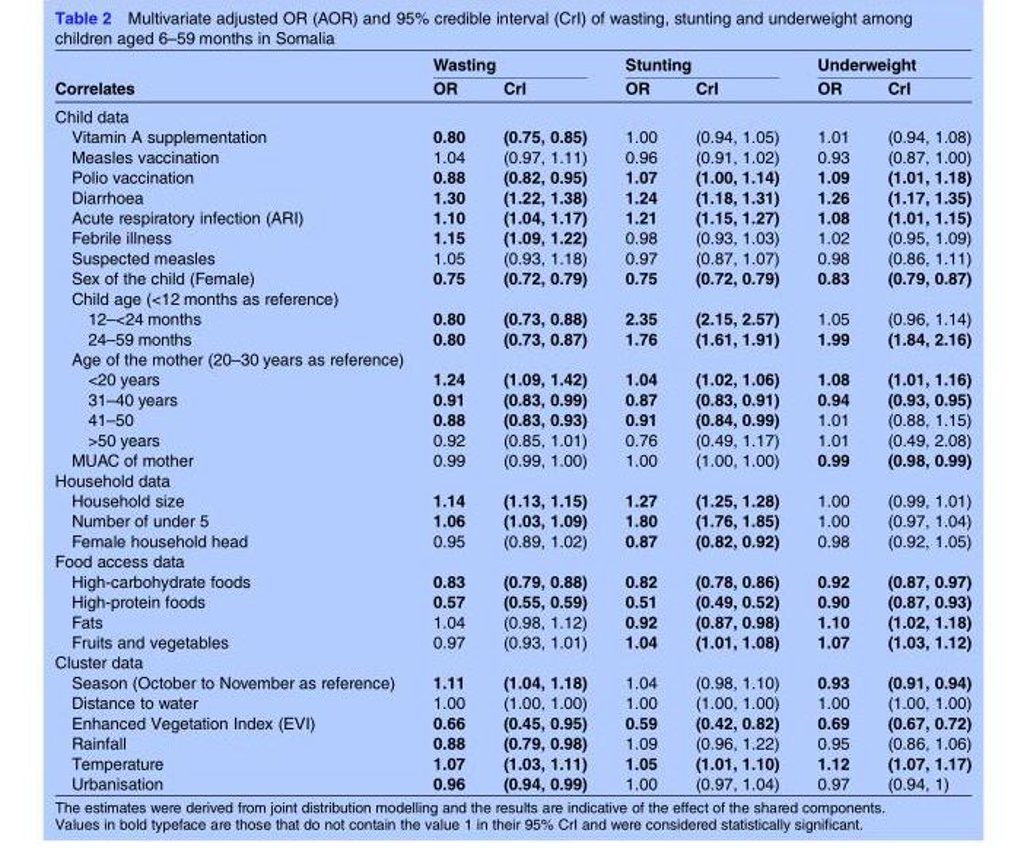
<table><thead><tr><td rowspan="2">Correlates</td><td colspan="2">Wasting</td><td colspan="2">Stunting</td><td colspan="2">Underweight</td></tr><tr><td>OR</td><td>CrI</td><td>OR</td><td>CrI</td><td>OR</td><td>CrI</td></tr></thead><tbody><tr><td colspan="7">Child data</td></tr><tr><td>Vitamin A supplementation</td><td>0.80</td><td>(0.75, 0.85)</td><td>1.00</td><td>(0.94, 1.05)</td><td>1.01</td><td>(0.94, 1.08)</td></tr><tr><td>Measles vaccination</td><td>1.04</td><td>(0.97, 1.11)</td><td>0.96</td><td>(0.91, 1.02)</td><td>0.93</td><td>(0.87, 1.00)</td></tr><tr><td>Polio vaccination</td><td>0.88</td><td>(0.82, 0.95)</td><td>1.07</td><td>(1.00, 1.14)</td><td>1.09</td><td>(1.01, 1.18)</td></tr><tr><td>Diarrhoea</td><td>1.30</td><td>(1.22, 1.38)</td><td>1.24</td><td>(1.18, 1.31)</td><td>1.26</td><td>(1.17, 1.35)</td></tr><tr><td>Acute respiratory infection (ARI)</td><td>1.10</td><td>(1.04, 1.17)</td><td>1.21</td><td>(1.15, 1.27)</td><td>1.08</td><td>(1.01, 1.15)</td></tr><tr><td>Febrile illness</td><td>1.15</td><td>(1.09, 1.22)</td><td>0.98</td><td>(0.93, 1.03)</td><td>1.02</td><td>(0.95, 1.09)</td></tr><tr><td>Suspected measles</td><td>1.05</td><td>(0.93, 1.18)</td><td>0.97</td><td>(0.87, 1.07)</td><td>0.98</td><td>(0.86, 1.11)</td></tr><tr><td>Sex of the child (Female)</td><td>0.75</td><td>(0.72, 0.79)</td><td>0.75</td><td>(0.72, 0.79)</td><td>0.83</td><td>(0.79, 0.87)</td></tr><tr><td colspan="7">Child age (&lt;12 months as reference)</td></tr><tr><td>12–&lt;24 months</td><td>0.80</td><td>(0.73, 0.88)</td><td>2.35</td><td>(2.15, 2.57)</td><td>1.05</td><td>(0.96, 1.14)</td></tr><tr><td>24–59 months</td><td>0.80</td><td>(0.73, 0.87)</td><td>1.76</td><td>(1.61, 1.91)</td><td>1.99</td><td>(1.84, 2.16)</td></tr><tr><td colspan="7">Age of the mother (20–30 years as reference)</td></tr><tr><td>&lt;20 years</td><td>1.24</td><td>(1.09, 1.42)</td><td>1.04</td><td>(1.02, 1.06)</td><td>1.08</td><td>(1.01, 1.16)</td></tr><tr><td>31–40 years</td><td>0.91</td><td>(0.83, 0.99)</td><td>0.87</td><td>(0.83, 0.91)</td><td>0.94</td><td>(0.93, 0.95)</td></tr><tr><td>41–50</td><td>0.88</td><td>(0.83, 0.93)</td><td>0.91</td><td>(0.84, 0.99)</td><td>1.01</td><td>(0.88, 1.15)</td></tr><tr><td>&gt;50 years</td><td>0.92</td><td>(0.85, 1.01)</td><td>0.76</td><td>(0.49, 1.17)</td><td>1.01</td><td>(0.49, 2.08)</td></tr><tr><td>MUAC of mother</td><td>0.99</td><td>(0.99, 1.00)</td><td>1.00</td><td>(1.00, 1.00)</td><td>0.99</td><td>(0.98, 0.99)</td></tr><tr><td colspan="7">Household data</td></tr><tr><td>Household size</td><td>1.14</td><td>(1.13, 1.15)</td><td>1.27</td><td>(1.25, 1.28)</td><td>1.00</td><td>(0.99, 1.01)</td></tr><tr><td>Number of under 5</td><td>1.06</td><td>(1.03, 1.09)</td><td>1.80</td><td>(1.76, 1.85)</td><td>1.00</td><td>(0.97, 1.04)</td></tr><tr><td>Female household head</td><td>0.95</td><td>(0.89, 1.02)</td><td>0.87</td><td>(0.82, 0.92)</td><td>0.98</td><td>(0.92, 1.05)</td></tr><tr><td colspan="7">Food access data</td></tr><tr><td>High-carbohydrate foods</td><td>0.83</td><td>(0.79, 0.88)</td><td>0.82</td><td>(0.78, 0.86)</td><td>0.92</td><td>(0.87, 0.97)</td></tr><tr><td>High-protein foods</td><td>0.57</td><td>(0.55, 0.59)</td><td>0.51</td><td>(0.49, 0.52)</td><td>0.90</td><td>(0.87, 0.93)</td></tr><tr><td>Fats</td><td>1.04</td><td>(0.98, 1.12)</td><td>0.92</td><td>(0.87, 0.98)</td><td>1.10</td><td>(1.02, 1.18)</td></tr><tr><td>Fruits and vegetables</td><td>0.97</td><td>(0.93, 1.01)</td><td>1.04</td><td>(1.01, 1.08)</td><td>1.07</td><td>(1.03, 1.12)</td></tr><tr><td colspan="7">Cluster data</td></tr><tr><td>Season (October to November as reference)</td><td>1.11</td><td>(1.04, 1.18)</td><td>1.04</td><td>(0.98, 1.10)</td><td>0.93</td><td>(0.91, 0.94)</td></tr><tr><td>Distance to water</td><td>1.00</td><td>(1.00, 1.00)</td><td>1.00</td><td>(1.00, 1.00)</td><td>1.00</td><td>(1.00, 1.00)</td></tr><tr><td>Enhanced Vegetation Index (EVI)</td><td>0.66</td><td>(0.45, 0.95)</td><td>0.59</td><td>(0.42, 0.82)</td><td>0.69</td><td>(0.67, 0.72)</td></tr><tr><td>Rainfall</td><td>0.88</td><td>(0.79, 0.98)</td><td>1.09</td><td>(0.96, 1.22)</td><td>0.95</td><td>(0.86, 1.06)</td></tr><tr><td>Temperature</td><td>1.07</td><td>(1.03, 1.11)</td><td>1.05</td><td>(1.01, 1.10)</td><td>1.12</td><td>(1.07, 1.17)</td></tr><tr><td>Urbanisation</td><td>0.96</td><td>(0.94, 0.99)</td><td>1.00</td><td>(0.97, 1.04)</td><td>0.97</td><td>(0.94, 1)</td></tr></tbody></table>